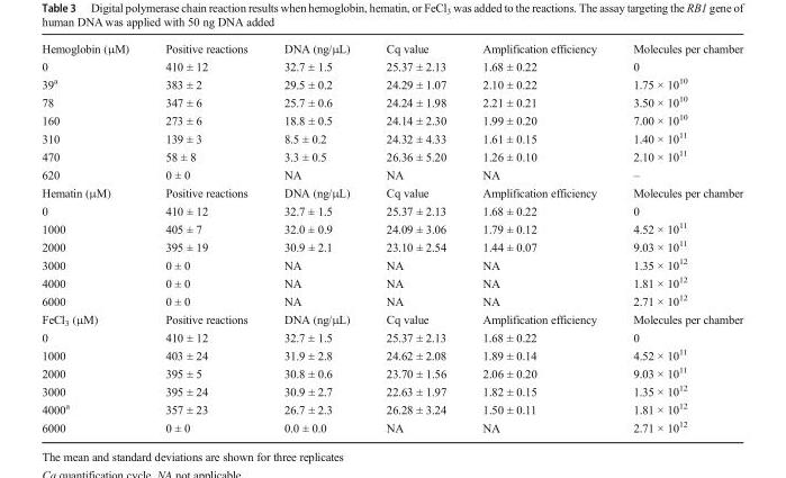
<table><tbody><tr><td>Hemoglobin (μM)</td><td>Positive reactions</td><td>DNA (ng/μL)</td><td>Cq value</td><td>Amplification efficiency</td><td>Molecules per chamber</td></tr><tr><td>0</td><td>410 ± 12</td><td>32.7 ± 1.5</td><td>25.37 ± 2.13</td><td>1.68 ± 0.22</td><td>0</td></tr><tr><td>39<sup>a</sup></td><td>383 ± 2</td><td>29.5 ± 0.2</td><td>24.29 ± 1.07</td><td>2.10 ± 0.22</td><td>1.75 × 10<sup>10</sup></td></tr><tr><td>78</td><td>347 ± 6</td><td>25.7 ± 0.6</td><td>24.24 ± 1.98</td><td>2.21 ± 0.21</td><td>3.50 × 10<sup>10</sup></td></tr><tr><td>160</td><td>273 ± 6</td><td>18.8 ± 0.5</td><td>24.14 ± 2.30</td><td>1.99 ± 0.20</td><td>7.00 × 10<sup>10</sup></td></tr><tr><td>310</td><td>139 ± 3</td><td>8.5 ± 0.2</td><td>24.32 ± 4.33</td><td>1.61 ± 0.15</td><td>1.40 × 10<sup>11</sup></td></tr><tr><td>470</td><td>58 ± 8</td><td>3.3 ± 0.5</td><td>26.36 ± 5.20</td><td>1.26 ± 0.10</td><td>2.10 × 10<sup>11</sup></td></tr><tr><td>620</td><td>0 ± 0</td><td>NA</td><td>NA</td><td>NA</td><td>–</td></tr><tr><td>Hematin (μM)</td><td>Positive reactions</td><td>DNA (ng/μL)</td><td>Cq value</td><td>Amplification efficiency</td><td>Molecules per chamber</td></tr><tr><td>0</td><td>410 ± 12</td><td>32.7 ± 1.5</td><td>25.37 ± 2.13</td><td>1.68 ± 0.22</td><td>0</td></tr><tr><td>1000</td><td>405 ± 7</td><td>32.0 ± 0.9</td><td>24.09 ± 3.06</td><td>1.79 ± 0.12</td><td>4.52 × 10<sup>11</sup></td></tr><tr><td>2000</td><td>395 ± 19</td><td>30.9 ± 2.1</td><td>23.10 ± 2.54</td><td>1.44 ± 0.07</td><td>9.03 × 10<sup>11</sup></td></tr><tr><td>3000</td><td>0 ± 0</td><td>NA</td><td>NA</td><td>NA</td><td>1.35 × 10<sup>12</sup></td></tr><tr><td>4000</td><td>0 ± 0</td><td>NA</td><td>NA</td><td>NA</td><td>1.81 × 10<sup>12</sup></td></tr><tr><td>6000</td><td>0 ± 0</td><td>NA</td><td>NA</td><td>NA</td><td>2.71 × 10<sup>12</sup></td></tr><tr><td>FeCl<sub>3</sub> (μM)</td><td>Positive reactions</td><td>DNA (ng/μL)</td><td>Cq value</td><td>Amplification efficiency</td><td>Molecules per chamber</td></tr><tr><td>0</td><td>410 ± 12</td><td>32.7 ± 1.5</td><td>25.37 ± 2.13</td><td>1.68 ± 0.22</td><td>0</td></tr><tr><td>1000</td><td>403 ± 24</td><td>31.9 ± 2.8</td><td>24.62 ± 2.08</td><td>1.89 ± 0.14</td><td>4.52 × 10<sup>11</sup></td></tr><tr><td>2000</td><td>395 ± 5</td><td>30.8 ± 0.6</td><td>23.70 ± 1.56</td><td>2.06 ± 0.20</td><td>9.03 × 10<sup>11</sup></td></tr><tr><td>3000</td><td>395 ± 24</td><td>30.9 ± 2.7</td><td>22.63 ± 1.97</td><td>1.82 ± 0.15</td><td>1.35 × 10<sup>12</sup></td></tr><tr><td>4000<sup>a</sup></td><td>357 ± 23</td><td>26.7 ± 2.3</td><td>26.28 ± 3.24</td><td>1.50 ± 0.11</td><td>1.81 × 10<sup>12</sup></td></tr><tr><td>6000</td><td>0 ± 0</td><td>0.0 ± 0.0</td><td>NA</td><td>NA</td><td>2.71 × 10<sup>12</sup></td></tr></tbody></table>